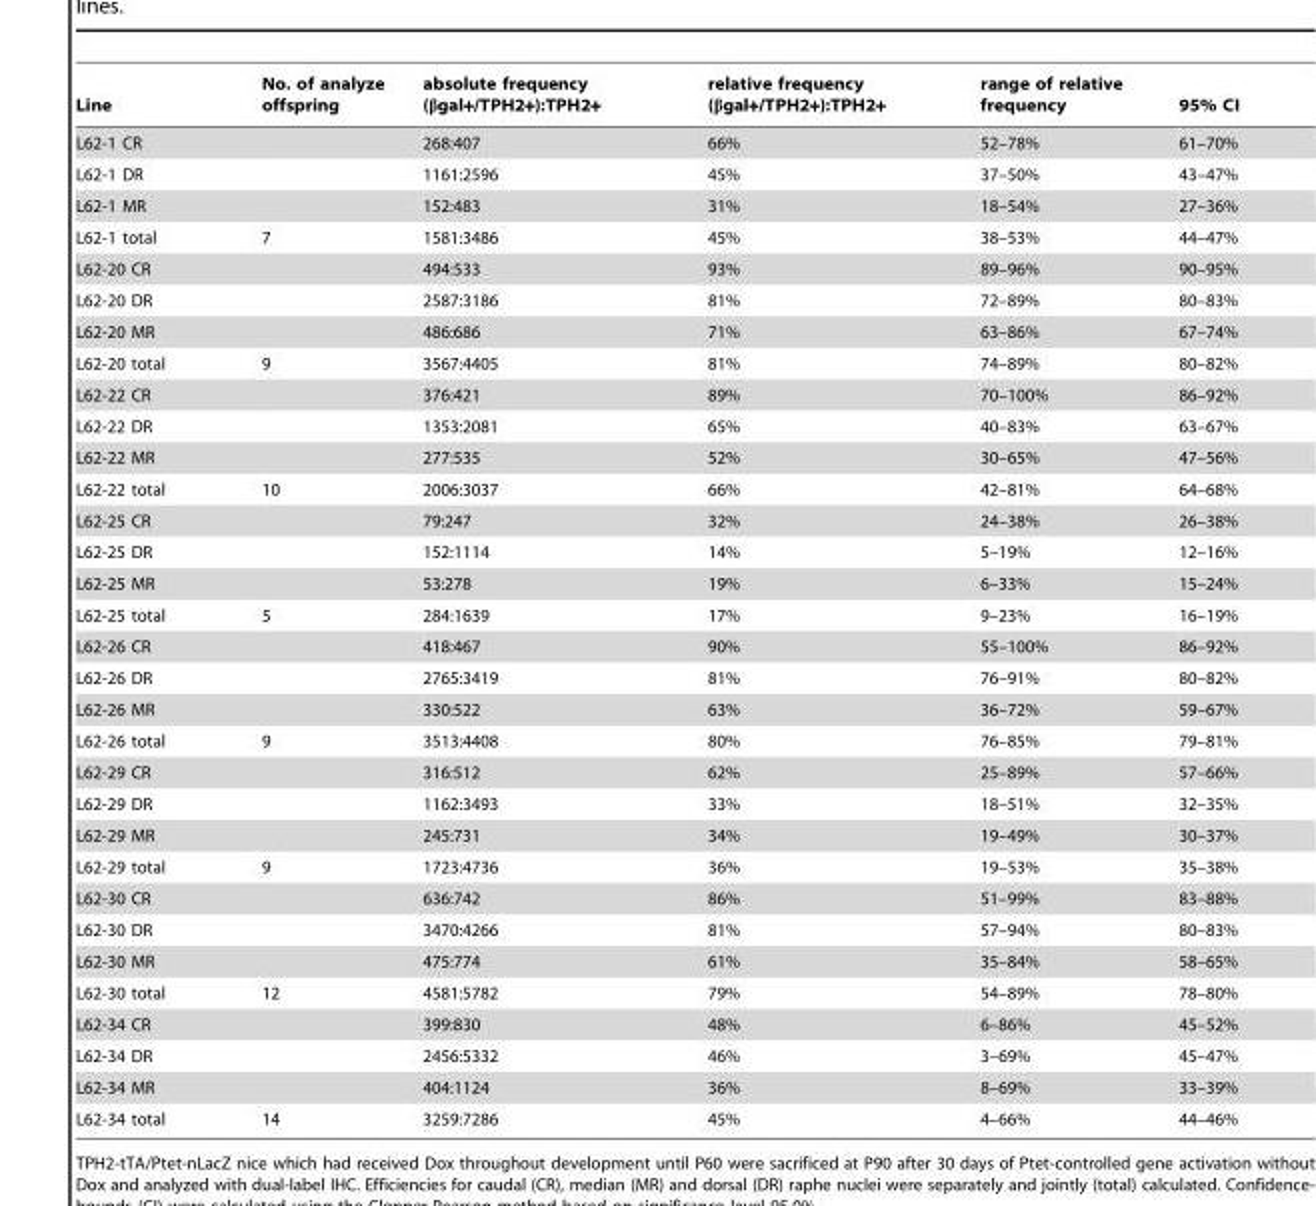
<table><thead><tr><td>Line</td><td>No. of analyze offspring</td><td>absolute frequency (βgal+/TPH2+):TPH2+</td><td>relative frequency (βgal+/TPH2+):TPH2+</td><td>range of relative frequency</td><td>95% CI</td></tr></thead><tbody><tr><td>L62-1 CR</td><td></td><td>268:407</td><td>66%</td><td>52–78%</td><td>61–70%</td></tr><tr><td>L62-1 DR</td><td></td><td>1161:2596</td><td>45%</td><td>37–50%</td><td>43–47%</td></tr><tr><td>L62-1 MR</td><td></td><td>152:483</td><td>31%</td><td>18–54%</td><td>27–36%</td></tr><tr><td>L62-1 total</td><td>7</td><td>1581:3486</td><td>45%</td><td>38–53%</td><td>44–47%</td></tr><tr><td>L62-20 CR</td><td></td><td>494:533</td><td>93%</td><td>89–96%</td><td>90–95%</td></tr><tr><td>L62-20 DR</td><td></td><td>2587:3186</td><td>81%</td><td>72–89%</td><td>80–83%</td></tr><tr><td>L62-20 MR</td><td></td><td>486:686</td><td>71%</td><td>63–86%</td><td>67–74%</td></tr><tr><td>L62-20 total</td><td>9</td><td>3567:4405</td><td>81%</td><td>74–89%</td><td>80–82%</td></tr><tr><td>L62-22 CR</td><td></td><td>376:421</td><td>89%</td><td>70–100%</td><td>86–92%</td></tr><tr><td>L62-22 DR</td><td></td><td>1353:2081</td><td>65%</td><td>40–83%</td><td>63–67%</td></tr><tr><td>L62-22 MR</td><td></td><td>277:535</td><td>52%</td><td>30–65%</td><td>47–56%</td></tr><tr><td>L62-22 total</td><td>10</td><td>2006:3037</td><td>66%</td><td>42–81%</td><td>64–68%</td></tr><tr><td>L62-25 CR</td><td></td><td>79:247</td><td>32%</td><td>24–38%</td><td>26–38%</td></tr><tr><td>L62-25 DR</td><td></td><td>152:1114</td><td>14%</td><td>5–19%</td><td>12–16%</td></tr><tr><td>L62-25 MR</td><td></td><td>53:278</td><td>19%</td><td>6–33%</td><td>15–24%</td></tr><tr><td>L62-25 total</td><td>5</td><td>284:1639</td><td>17%</td><td>9–23%</td><td>16–19%</td></tr><tr><td>L62-26 CR</td><td></td><td>418:467</td><td>90%</td><td>55–100%</td><td>86–92%</td></tr><tr><td>L62-26 DR</td><td></td><td>2765:3419</td><td>81%</td><td>76–91%</td><td>80–82%</td></tr><tr><td>L62-26 MR</td><td></td><td>330:522</td><td>63%</td><td>36–72%</td><td>59–67%</td></tr><tr><td>L62-26 total</td><td>9</td><td>3513:4408</td><td>80%</td><td>76–85%</td><td>79–81%</td></tr><tr><td>L62-29 CR</td><td></td><td>316:512</td><td>62%</td><td>25–89%</td><td>57–66%</td></tr><tr><td>L62-29 DR</td><td></td><td>1162:3493</td><td>33%</td><td>18–51%</td><td>32–35%</td></tr><tr><td>L62-29 MR</td><td></td><td>245:731</td><td>34%</td><td>19–49%</td><td>30–37%</td></tr><tr><td>L62-29 total</td><td>9</td><td>1723:4736</td><td>36%</td><td>19–53%</td><td>35–38%</td></tr><tr><td>L62-30 CR</td><td></td><td>636:742</td><td>86%</td><td>51–99%</td><td>83–88%</td></tr><tr><td>L62-30 DR</td><td></td><td>3470:4266</td><td>81%</td><td>57–94%</td><td>80–83%</td></tr><tr><td>L62-30 MR</td><td></td><td>475:774</td><td>61%</td><td>35–84%</td><td>58–65%</td></tr><tr><td>L62-30 total</td><td>12</td><td>4581:5782</td><td>79%</td><td>54–89%</td><td>78–80%</td></tr><tr><td>L62-34 CR</td><td></td><td>399:830</td><td>48%</td><td>6–86%</td><td>45–52%</td></tr><tr><td>L62-34 DR</td><td></td><td>2456:5332</td><td>46%</td><td>3–69%</td><td>45–47%</td></tr><tr><td>L62-34 MR</td><td></td><td>404:1124</td><td>36%</td><td>8–69%</td><td>33–39%</td></tr><tr><td>L62-34 total</td><td>14</td><td>3259:7286</td><td>45%</td><td>4–66%</td><td>44–46%</td></tr></tbody></table>